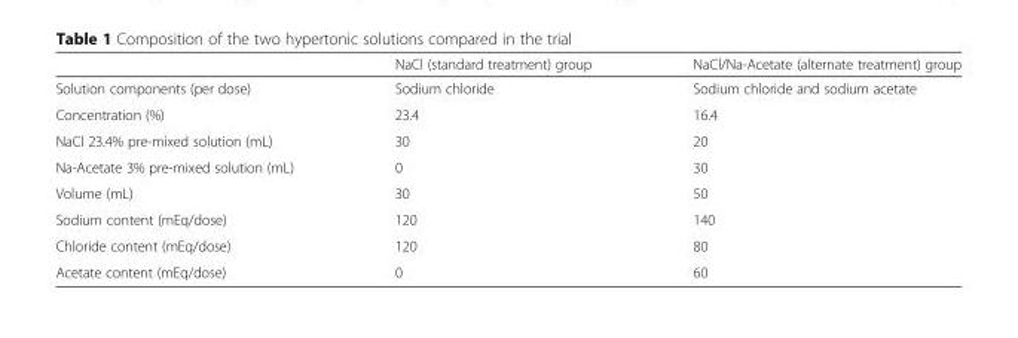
<table><thead><tr><td></td><td>NaCl (standard treatment) group</td><td>NaCl/Na-Acetate (alternate treatment) group</td></tr></thead><tbody><tr><td>Solution components (per dose)</td><td>Sodium chloride</td><td>Sodium chloride and sodium acetate</td></tr><tr><td>Concentration (%)</td><td>23.4</td><td>16.4</td></tr><tr><td>NaCl 23.4% pre-mixed solution (mL)</td><td>30</td><td>20</td></tr><tr><td>Na-Acetate 3% pre-mixed solution (mL)</td><td>0</td><td>30</td></tr><tr><td>Volume (mL)</td><td>30</td><td>50</td></tr><tr><td>Sodium content (mEq/dose)</td><td>120</td><td>140</td></tr><tr><td>Chloride content (mEq/dose)</td><td>120</td><td>80</td></tr><tr><td>Acetate content (mEq/dose)</td><td>0</td><td>60</td></tr></tbody></table>